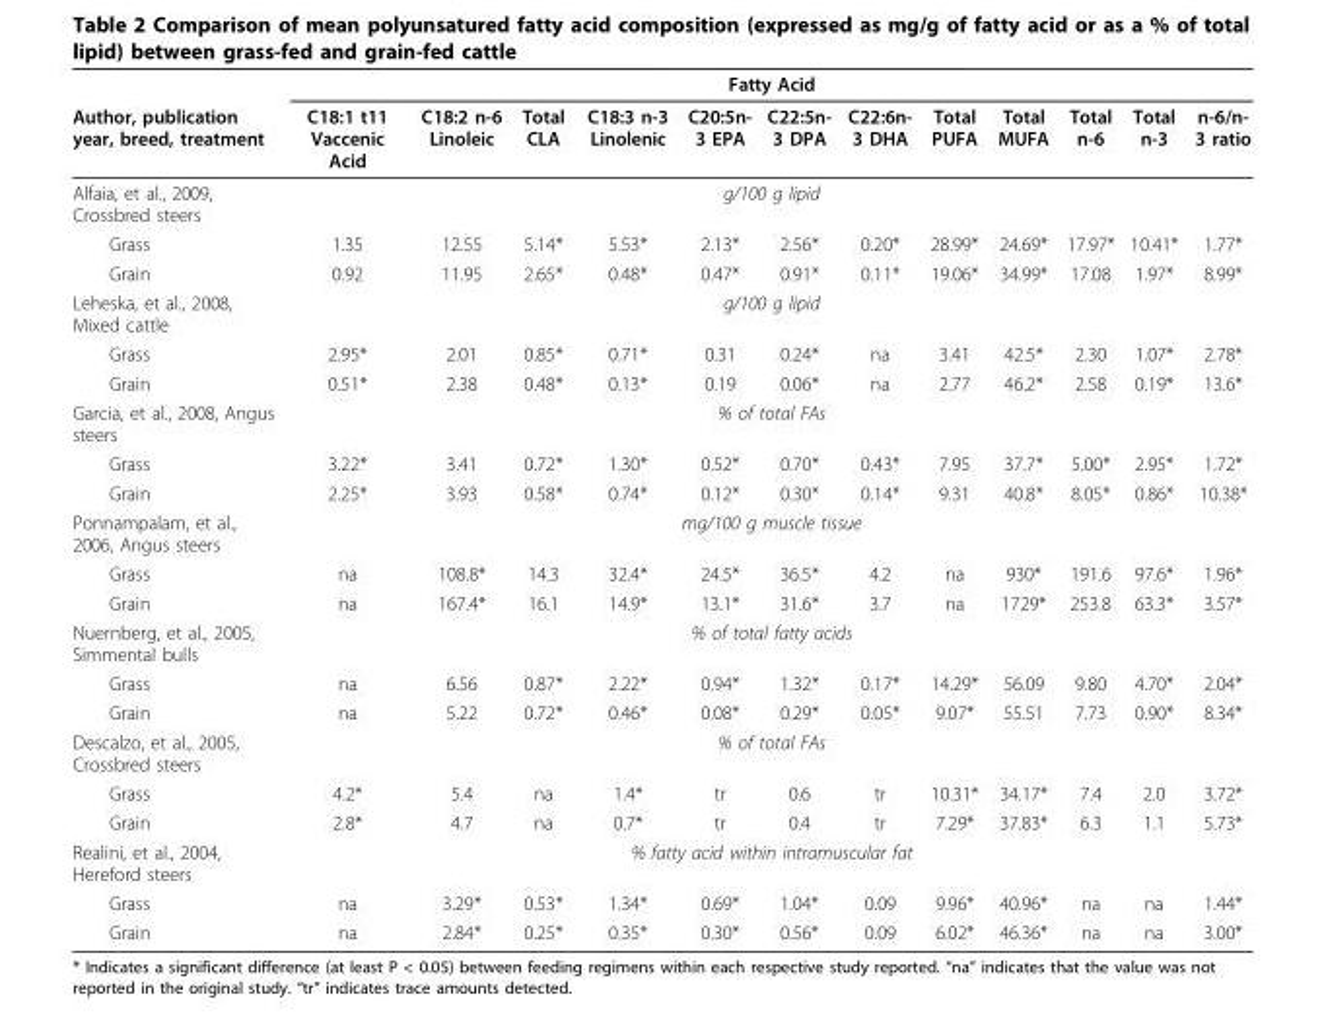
<table><thead><tr><td rowspan="2">Author, publication year, breed, treatment</td><td colspan="12">Fatty Acid</td></tr><tr><td>C18:1 t11 Vaccenic Acid</td><td>C18:2 n-6 Linoleic</td><td>Total CLA</td><td>C18:3 n-3 Linolenic</td><td>C20:5n- 3 EPA</td><td>C22:5n- 3 DPA</td><td>C22:6n- 3 DHA</td><td>Total PUFA</td><td>Total MUFA</td><td>Total n-6</td><td>Total n-3</td><td>n-6/n- 3 ratio</td></tr></thead><tbody><tr><td>Alfaia, et al., 2009, Crossbred steers</td><td colspan="12">g/100 g lipid</td></tr><tr><td>Grass</td><td>1.35</td><td>12.55</td><td>5.14*</td><td>5.53*</td><td>2.13*</td><td>2.56*</td><td>0.20*</td><td>28.99*</td><td>24.69*</td><td>17.97*</td><td>10.41*</td><td>1.77*</td></tr><tr><td>Grain</td><td>0.92</td><td>11.95</td><td>2.65*</td><td>0.48*</td><td>0.47*</td><td>0.91*</td><td>0.11*</td><td>19.06*</td><td>34.99*</td><td>17.08</td><td>1.97*</td><td>8.99*</td></tr><tr><td>Leheska, et al., 2008, Mixed cattle</td><td colspan="12">g/100 g lipid</td></tr><tr><td>Grass</td><td>2.95*</td><td>2.01</td><td>0.85*</td><td>0.71*</td><td>0.31</td><td>0.24*</td><td>na</td><td>3.41</td><td>42.5*</td><td>2.30</td><td>1.07*</td><td>2.78*</td></tr><tr><td>Grain</td><td>0.51*</td><td>2.38</td><td>0.48*</td><td>0.13*</td><td>0.19</td><td>0.06*</td><td>na</td><td>2.77</td><td>46.2*</td><td>2.58</td><td>0.19*</td><td>13.6*</td></tr><tr><td>Garcia, et al., 2008, Angus steers</td><td colspan="12">% of total FAs</td></tr><tr><td>Grass</td><td>3.22*</td><td>3.41</td><td>0.72*</td><td>1.30*</td><td>0.52*</td><td>0.70*</td><td>0.43*</td><td>7.95</td><td>37.7*</td><td>5.00*</td><td>2.95*</td><td>1.72*</td></tr><tr><td>Grain</td><td>2.25*</td><td>3.93</td><td>0.58*</td><td>0.74*</td><td>0.12*</td><td>0.30*</td><td>0.14*</td><td>9.31</td><td>40.8*</td><td>8.05*</td><td>0.86*</td><td>10.38*</td></tr><tr><td>Ponnampalam, et al., 2006, Angus steers</td><td colspan="12">mg/100 g muscle tissue</td></tr><tr><td>Grass</td><td>na</td><td>108.8*</td><td>14.3</td><td>32.4*</td><td>24.5*</td><td>36.5*</td><td>4.2</td><td>na</td><td>930*</td><td>191.6</td><td>97.6*</td><td>1.96*</td></tr><tr><td>Grain</td><td>na</td><td>167.4*</td><td>16.1</td><td>14.9*</td><td>13.1*</td><td>31.6*</td><td>3.7</td><td>na</td><td>1729*</td><td>253.8</td><td>63.3*</td><td>3.57*</td></tr><tr><td>Nuernberg, et al., 2005, Simmental bulls</td><td colspan="12">% of total fatty acids</td></tr><tr><td>Grass</td><td>na</td><td>6.56</td><td>0.87*</td><td>2.22*</td><td>0.94*</td><td>1.32*</td><td>0.17*</td><td>14.29*</td><td>56.09</td><td>9.80</td><td>4.70*</td><td>2.04*</td></tr><tr><td>Grain</td><td>na</td><td>5.22</td><td>0.72*</td><td>0.46*</td><td>0.08*</td><td>0.29*</td><td>0.05*</td><td>9.07*</td><td>55.51</td><td>7.73</td><td>0.90*</td><td>8.34*</td></tr><tr><td>Descalzo, et al., 2005, Crossbred steers</td><td colspan="12">% of total FAs</td></tr><tr><td>Grass</td><td>4.2*</td><td>5.4</td><td>na</td><td>1.4*</td><td>tr</td><td>0.6</td><td>tr</td><td>10.31*</td><td>34.17*</td><td>7.4</td><td>2.0</td><td>3.72*</td></tr><tr><td>Grain</td><td>2.8*</td><td>4.7</td><td>na</td><td>0.7*</td><td>tr</td><td>0.4</td><td>tr</td><td>7.29*</td><td>37.83*</td><td>6.3</td><td>1.1</td><td>5.73*</td></tr><tr><td>Realini, et al., 2004, Hereford steers</td><td colspan="12">% fatty acid within intramuscular fat</td></tr><tr><td>Grass</td><td>na</td><td>3.29*</td><td>0.53*</td><td>1.34*</td><td>0.69*</td><td>1.04*</td><td>0.09</td><td>9.96*</td><td>40.96*</td><td>na</td><td>na</td><td>1.44*</td></tr><tr><td>Grain</td><td>na</td><td>2.84*</td><td>0.25*</td><td>0.35*</td><td>0.30*</td><td>0.56*</td><td>0.09</td><td>6.02*</td><td>46.36*</td><td>na</td><td>na</td><td>3.00*</td></tr></tbody></table>